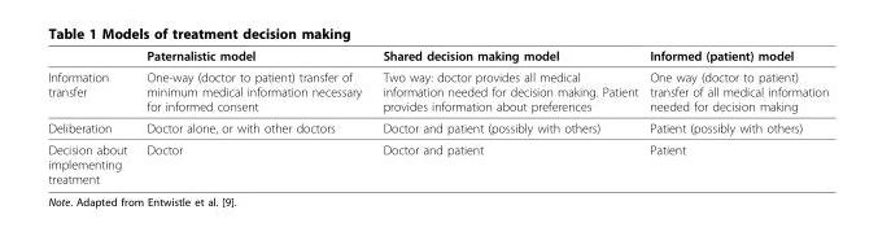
<table><thead><tr><td></td><td>Paternalistic model</td><td>Shared decision making model</td><td>Informed (patient) model</td></tr></thead><tbody><tr><td>Information transfer</td><td>One-way (doctor to patient) transfer of minimum medical information necessary for informed consent</td><td>Two way: doctor provides all medical information needed for decision making. Patient provides information about preferences</td><td>One way (doctor to patient) transfer of all medical information needed for decision making</td></tr><tr><td>Deliberation</td><td>Doctor alone, or with other doctors</td><td>Doctor and patient (possibly with others)</td><td>Patient (possibly with others)</td></tr><tr><td>Decision about implementing treatment</td><td>Doctor</td><td>Doctor and patient</td><td>Patient</td></tr></tbody></table>